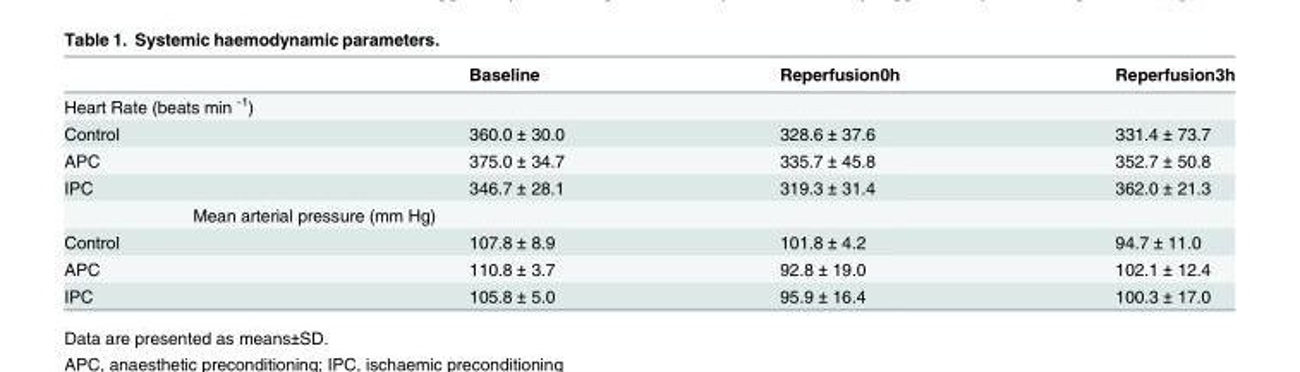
<table><thead><tr><td></td><td>Baseline</td><td>Reperfusion0h</td><td>Reperfusion3h</td></tr></thead><tbody><tr><td colspan="4">Heart Rate (beats min <sup>-1</sup>)</td></tr><tr><td>Control</td><td>360.0 ± 30.0</td><td>328.6 ± 37.6</td><td>331.4 ± 73.7</td></tr><tr><td>APC</td><td>375.0 ± 34.7</td><td>335.7 ± 45.8</td><td>352.7 ± 50.8</td></tr><tr><td>IPC</td><td>346.7 ± 28.1</td><td>319.3 ± 31.4</td><td>362.0 ± 21.3</td></tr><tr><td colspan="4">Mean arterial pressure (mm Hg)</td></tr><tr><td>Control</td><td>107.8 ± 8.9</td><td>101.8 ± 4.2</td><td>94.7 ± 11.0</td></tr><tr><td>APC</td><td>110.8 ± 3.7</td><td>92.8 ± 19.0</td><td>102.1 ± 12.4</td></tr><tr><td>IPC</td><td>105.8 ± 5.0</td><td>95.9 ± 16.4</td><td>100.3 ± 17.0</td></tr></tbody></table>